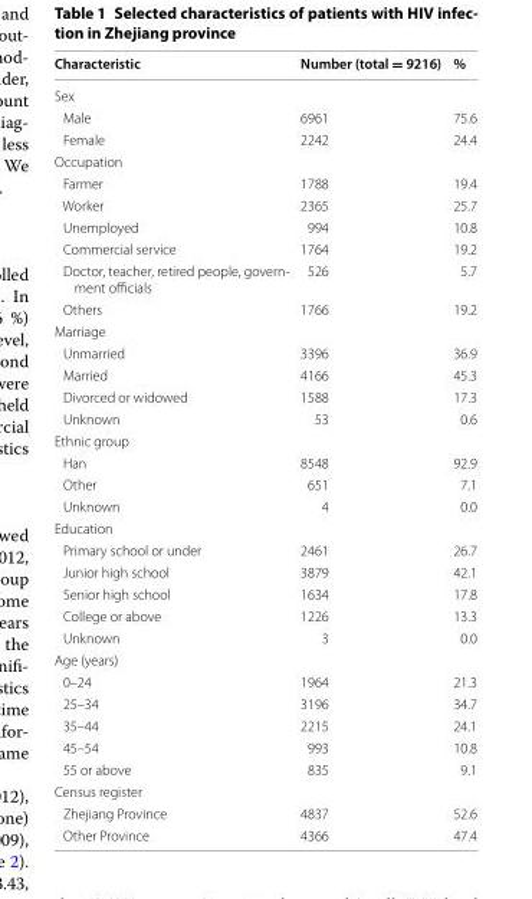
<table><thead><tr><td>Characteristic</td><td>Number (total = 9216)</td><td>%</td></tr></thead><tbody><tr><td colspan="3">Sex</td></tr><tr><td>Male</td><td>6961</td><td>75.6</td></tr><tr><td>Female</td><td>2242</td><td>24.4</td></tr><tr><td colspan="3">Occupation</td></tr><tr><td>Farmer</td><td>1788</td><td>19.4</td></tr><tr><td>Worker</td><td>2365</td><td>25.7</td></tr><tr><td>Unemployed</td><td>994</td><td>10.8</td></tr><tr><td>Commercial service</td><td>1764</td><td>19.2</td></tr><tr><td>Doctor, teacher, retired people, govern- ment officials</td><td>526</td><td>5.7</td></tr><tr><td>Others</td><td>1766</td><td>19.2</td></tr><tr><td colspan="3">Marriage</td></tr><tr><td>Unmarried</td><td>3396</td><td>36.9</td></tr><tr><td>Married</td><td>4166</td><td>45.3</td></tr><tr><td>Divorced or widowed</td><td>1588</td><td>17.3</td></tr><tr><td>Unknown</td><td>53</td><td>0.6</td></tr><tr><td colspan="3">Ethnic group</td></tr><tr><td>Han</td><td>8548</td><td>92.9</td></tr><tr><td>Other</td><td>651</td><td>7.1</td></tr><tr><td>Unknown</td><td>4</td><td>0.0</td></tr><tr><td colspan="3">Education</td></tr><tr><td>Primary school or under</td><td>2461</td><td>26.7</td></tr><tr><td>Junior high school</td><td>3879</td><td>42.1</td></tr><tr><td>Senior high school</td><td>1634</td><td>17.8</td></tr><tr><td>College or above</td><td>1226</td><td>13.3</td></tr><tr><td>Unknown</td><td>3</td><td>0.0</td></tr><tr><td colspan="3">Age (years)</td></tr><tr><td>0–24</td><td>1964</td><td>21.3</td></tr><tr><td>25–34</td><td>3196</td><td>34.7</td></tr><tr><td>35–44</td><td>2215</td><td>24.1</td></tr><tr><td>45–54</td><td>993</td><td>10.8</td></tr><tr><td>55 or above</td><td>835</td><td>9.1</td></tr><tr><td colspan="3">Census register</td></tr><tr><td>Zhejiang Province</td><td>4837</td><td>52.6</td></tr><tr><td>Other Province</td><td>4366</td><td>47.4</td></tr></tbody></table>